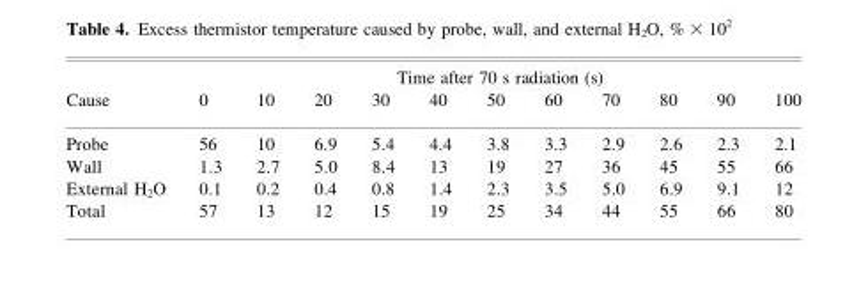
<table><thead><tr><td rowspan="2">Cause</td><td colspan="11">Time after 70 s radiation (s)</td></tr><tr><td>0</td><td>10</td><td>20</td><td>30</td><td>40</td><td>50</td><td>60</td><td>70</td><td>80</td><td>90</td><td>100</td></tr></thead><tbody><tr><td>Probe</td><td>56</td><td>10</td><td>6.9</td><td>5.4</td><td>4.4</td><td>3.8</td><td>3.3</td><td>2.9</td><td>2.6</td><td>2.3</td><td>2.1</td></tr><tr><td>Wall</td><td>1.3</td><td>2.7</td><td>5.0</td><td>8.4</td><td>13</td><td>19</td><td>27</td><td>36</td><td>45</td><td>55</td><td>66</td></tr><tr><td>External H<sub>2</sub>O</td><td>0.1</td><td>0.2</td><td>0.4</td><td>0.8</td><td>1.4</td><td>2.3</td><td>3.5</td><td>5.0</td><td>6.9</td><td>9.1</td><td>12</td></tr><tr><td>Total</td><td>57</td><td>13</td><td>12</td><td>15</td><td>19</td><td>25</td><td>34</td><td>44</td><td>55</td><td>66</td><td>80</td></tr></tbody></table>